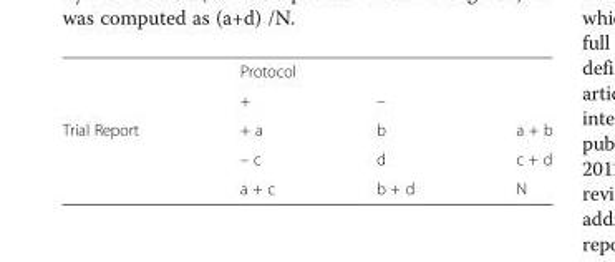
<table><thead><tr><td rowspan="2"></td><td colspan="2">Protocol</td><td rowspan="2"></td></tr><tr><td>+</td><td>–</td></tr></thead><tbody><tr><td rowspan="3">Trial Report</td><td>+ a</td><td>b</td><td>a + b</td></tr><tr><td>– c</td><td>d</td><td>c + d</td></tr><tr><td>a + c</td><td>b + d</td><td>N</td></tr></tbody></table>